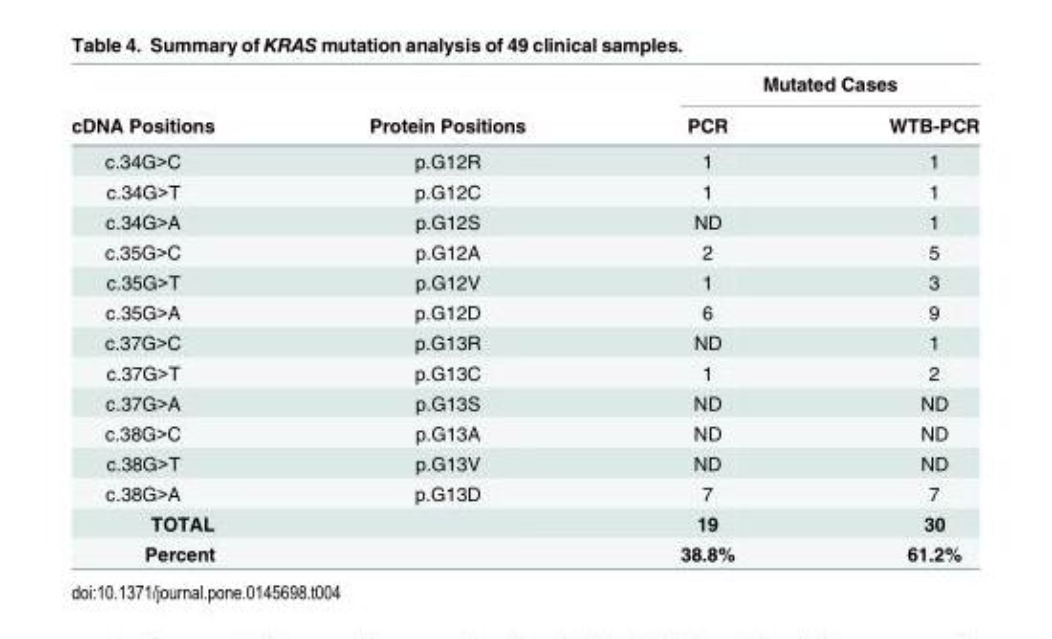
<table><thead><tr><td rowspan="2">cDNA Positions</td><td rowspan="2">Protein Positions</td><td colspan="2">Mutated Cases</td></tr><tr><td>PCR</td><td>WTB-PCR</td></tr></thead><tbody><tr><td>c.34G&gt;C</td><td>p.G12R</td><td>1</td><td>1</td></tr><tr><td>c.34G&gt;T</td><td>p.G12C</td><td>1</td><td>1</td></tr><tr><td>c.34G&gt;A</td><td>p.G12S</td><td>ND</td><td>1</td></tr><tr><td>c.35G&gt;C</td><td>p.G12A</td><td>2</td><td>5</td></tr><tr><td>c.35G&gt;T</td><td>p.G12V</td><td>1</td><td>3</td></tr><tr><td>c.35G&gt;A</td><td>p.G12D</td><td>6</td><td>9</td></tr><tr><td>c.37G&gt;C</td><td>p.G13R</td><td>ND</td><td>1</td></tr><tr><td>c.37G&gt;T</td><td>p.G13C</td><td>1</td><td>2</td></tr><tr><td>c.37G&gt;A</td><td>p.G13S</td><td>ND</td><td>ND</td></tr><tr><td>c.38G&gt;C</td><td>p.G13A</td><td>ND</td><td>ND</td></tr><tr><td>c.38G&gt;T</td><td>p.G13V</td><td>ND</td><td>ND</td></tr><tr><td>c.38G&gt;A</td><td>p.G13D</td><td>7</td><td>7</td></tr><tr><td>TOTAL</td><td></td><td>19</td><td>30</td></tr><tr><td>Percent</td><td></td><td>38.8%</td><td>61.2%</td></tr></tbody></table>